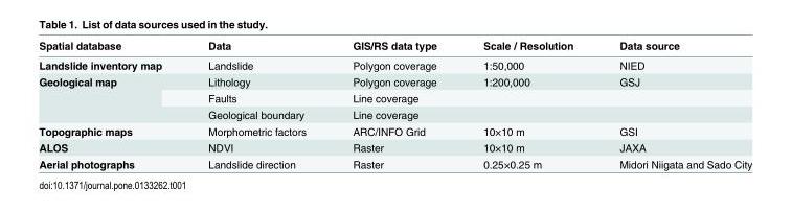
<table><thead><tr><td>Spatial database</td><td>Data</td><td>GIS/RS data type</td><td>Scale / Resolution</td><td>Data source</td></tr></thead><tbody><tr><td>Landslide inventory map</td><td>Landslide</td><td>Polygon coverage</td><td>1:50,000</td><td>NIED</td></tr><tr><td rowspan="3">Geological map</td><td>Lithology</td><td>Polygon coverage</td><td>1:200,000</td><td>GSJ</td></tr><tr><td>Faults</td><td>Line coverage</td><td></td><td></td></tr><tr><td>Geological boundary</td><td>Line coverage</td><td></td><td></td></tr><tr><td>Topographic maps</td><td>Morphometric factors</td><td>ARC/INFO Grid</td><td>10×10 m</td><td>GSI</td></tr><tr><td>ALOS</td><td>NDVI</td><td>Raster</td><td>10×10 m</td><td>JAXA</td></tr><tr><td>Aerial photographs</td><td>Landslide direction</td><td>Raster</td><td>0.25×0.25 m</td><td>Midori Niigata and Sado City</td></tr></tbody></table>